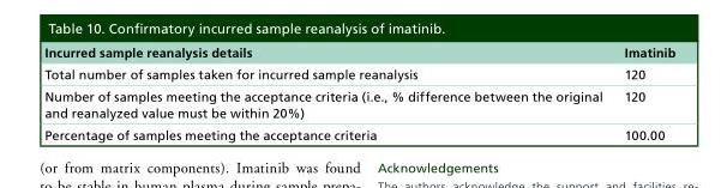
<table><thead><tr><td>Incurred sample reanalysis details</td><td>Imatinib</td></tr></thead><tbody><tr><td>Total number of samples taken for incurred sample reanalysis</td><td>120</td></tr><tr><td>Number of samples meeting the acceptance criteria (i.e., % difference between the original and reanalyzed value must be within 20%)</td><td>120</td></tr><tr><td>Percentage of samples meeting the acceptance criteria</td><td>100.00</td></tr></tbody></table>